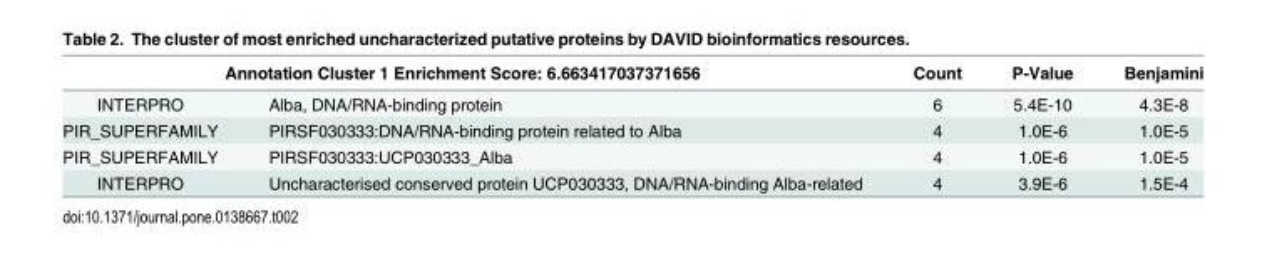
<table><thead><tr><td colspan="2">Annotation Cluster 1 Enrichment Score: 6.663417037371656</td><td rowspan="2">Count 6</td><td rowspan="2">P-Value 5.4E-10</td><td rowspan="2">Benjamini 4.3E-8</td></tr><tr><td>INTERPRO</td><td>Alba, DNA/RNA-binding protein</td></tr></thead><tbody><tr><td>PIR_SUPERFAMILY</td><td>PIRSF030333:DNA/RNA-binding protein related to Alba</td><td>4</td><td>1.0E-6</td><td>1.0E-5</td></tr><tr><td>PIR_SUPERFAMILY</td><td>PIRSF030333:UCP030333_Alba</td><td>4</td><td>1.0E-6</td><td>1.0E-5</td></tr><tr><td>INTERPRO</td><td>Uncharacterised conserved protein UCP030333, DNA/RNA-binding Alba-related</td><td>4</td><td>3.9E-6</td><td>1.5E-4</td></tr></tbody></table>